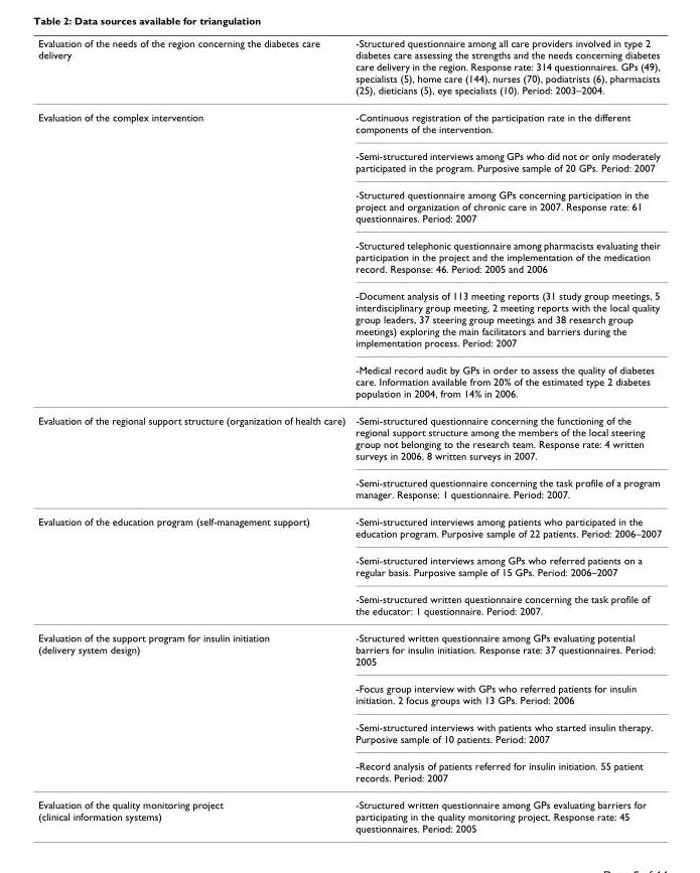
<table><thead><tr><td>Evaluation of the needs of the region concerning the diabetes care delivery</td><td>-Structured questionnaire among all care providers involved in type 2 diabetes care assessing the strengths and the needs concerning diabetes care delivery in the region. Response rate: 314 questionnaires. GPs (49), specialists (5), home care (144), nurses (70), podiatrists (6), pharmacists (25), dieticians (5), eye specialists (10). Period: 2003–2004.</td></tr></thead><tbody><tr><td rowspan="6">Evaluation of the complex intervention</td><td>-Continuous registration of the participation rate in the different components of the intervention.</td></tr><tr><td>-Semi-structured interviews among GPs who did not or only moderately participated in the program. Purposive sample of 20 GPs. Period: 2007</td></tr><tr><td>-Structured questionnaire among GPs concerning participation in the project and organization of chronic care in 2007. Response rate: 61 questionnaires. Period: 2007</td></tr><tr><td>-Structured telephonic questionnaire among pharmacists evaluating their participation in the project and the implementation of the medication record. Response: 46. Period: 2005 and 2006</td></tr><tr><td>-Document analysis of 113 meeting reports (31 study group meetings, 5 interdisciplinary group meeting, 2 meeting reports with the local quality group leaders, 37 steering group meetings and 38 research group meetings) exploring the main facilitators and barriers during the implementation process. Period: 2007</td></tr><tr><td>-Medical record audit by GPs in order to assess the quality of diabetes care. Information available from 20% of the estimated type 2 diabetes population in 2004, from 14% in 2006.</td></tr><tr><td rowspan="2">Evaluation of the regional support structure (organization of health care)</td><td>-Semi-structured questionnaire concerning the functioning of the regional support structure among the members of the local steering group not belonging to the research team. Response rate: 4 written surveys in 2006, 8 written surveys in 2007.</td></tr><tr><td>-Semi-structured questionnaire concerning the task profile of a program manager. Response: 1 questionnaire. Period: 2007.</td></tr><tr><td rowspan="3">Evaluation of the education program (self-management support)</td><td>-Semi-structured interviews among patients who participated in the education program. Purposive sample of 22 patients. Period: 2006–2007</td></tr><tr><td>-Semi-structured interviews among GPs who referred patients on a regular basis. Purposive sample of 15 GPs. Period: 2006–2007</td></tr><tr><td>-Semi-structured written questionnaire concerning the task profile of the educator: 1 questionnaire. Period: 2007.</td></tr><tr><td rowspan="4">Evaluation of the support program for insulin initiation (delivery system design)</td><td>-Structured written questionnaire among GPs evaluating potential barriers for insulin initiation. Response rate: 37 questionnaires. Period: 2005</td></tr><tr><td>-Focus group interview with GPs who referred patients for insulin initiation. 2 focus groups with 13 GPs. Period: 2006</td></tr><tr><td>-Semi-structured interviews with patients who started insulin therapy. Purposive sample of 10 patients. Period: 2007</td></tr><tr><td>-Record analysis of patients referred for insulin initiation. 55 patient records. Period: 2007</td></tr><tr><td>Evaluation of the quality monitoring project (clinical information systems)</td><td>-Structured written questionnaire among GPs evaluating barriers for participating in the quality monitoring project. Response rate: 45 questionnaires. Period: 2005</td></tr></tbody></table>